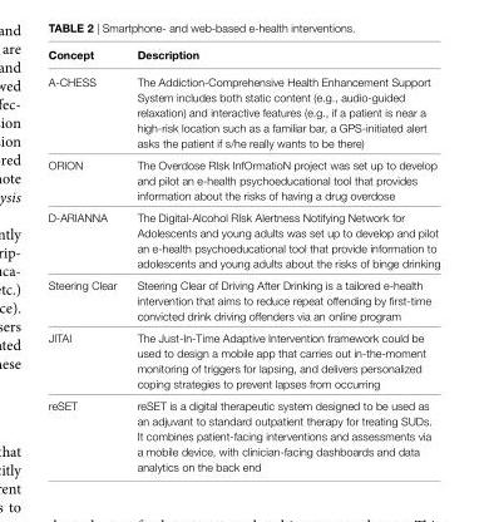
<table><thead><tr><td>Concept</td><td>Description</td></tr></thead><tbody><tr><td>ACHESS</td><td>The AddictionComprehensive Health Enhancement Support System includes both static content (e.g., audioguided relaxation) and interactive features (e.g., if a patient is near a highrisk location such as a familiar bar, a GPSinitiated alert asks the patient if s/he really wants to be there)</td></tr><tr><td>ORION</td><td>The Overdose RIsk InfOrmatioN project was set up to develop and pilot an ehealth psychoeducational tool that provides information about the risks of having a drug overdose</td></tr><tr><td>DARIANNA</td><td>The DigitalAlcohol RIsk Alertness Notifying Network for Adolescents and young adults was set up to develop and pilot an ehealth psychoeducational tool that provide information to adolescents and young adults about the risks of binge drinking</td></tr><tr><td>Steering Clear</td><td>Steering Clear of Driving After Drinking is a tailored ehealth intervention that aims to reduce repeat offending by firsttime convicted drink driving offenders via an online program</td></tr><tr><td>JITAI</td><td>The JustInTime Adaptive Intervention framework could be used to design a mobile app that carries out inthemoment monitoring of triggers for lapsing, and delivers personalized coping strategies to prevent lapses from occurring</td></tr><tr><td>reSET</td><td>reSET is a digital therapeutic system designed to be used as an adjuvant to standard outpatient therapy for treating SUDs. It combines patientfacing interventions and assessments via a mobile device, with clinicianfacing dashboards and data analytics on the back end</td></tr></tbody></table>